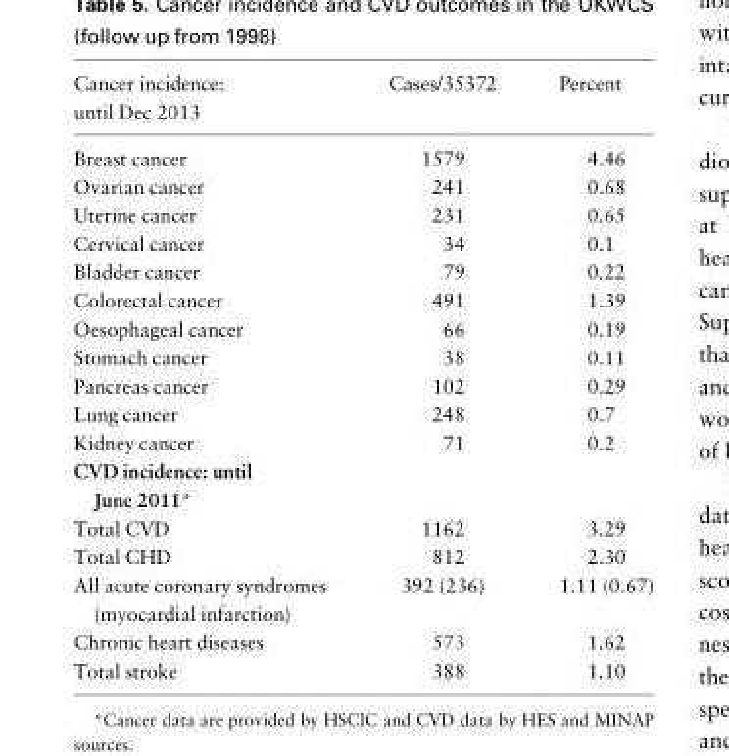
<table><thead><tr><td>Cancer incidence: until Dec 2013</td><td>Cases/35372</td><td>Percent</td></tr></thead><tbody><tr><td>Breast cancer</td><td>1579</td><td>4.46</td></tr><tr><td>Ovarian cancer</td><td>241</td><td>0.68</td></tr><tr><td>Uterine cancer</td><td>231</td><td>0.65</td></tr><tr><td>Cervical cancer</td><td>34</td><td>0.1</td></tr><tr><td>Bladder cancer</td><td>79</td><td>0.22</td></tr><tr><td>Colorectal cancer</td><td>491</td><td>1.39</td></tr><tr><td>Oesophageal cancer</td><td>66</td><td>0.19</td></tr><tr><td>Stomach cancer</td><td>38</td><td>0.11</td></tr><tr><td>Pancreas cancer</td><td>102</td><td>0.29</td></tr><tr><td>Lung cancer</td><td>248</td><td>0.7</td></tr><tr><td>Kidney cancer</td><td>71</td><td>0.2</td></tr><tr><td colspan="3">CVD incidence: until June 2011*</td></tr><tr><td>Total CVD</td><td>1162</td><td>3.29</td></tr><tr><td>Total CHD</td><td>812</td><td>2.30</td></tr><tr><td>All acute coronary syndromes (myocardial infarction)</td><td>392 (236)</td><td>1.11 (0.67)</td></tr><tr><td>Chronic heart diseases</td><td>573</td><td>1.62</td></tr><tr><td>Total stroke</td><td>388</td><td>1.10</td></tr></tbody></table>